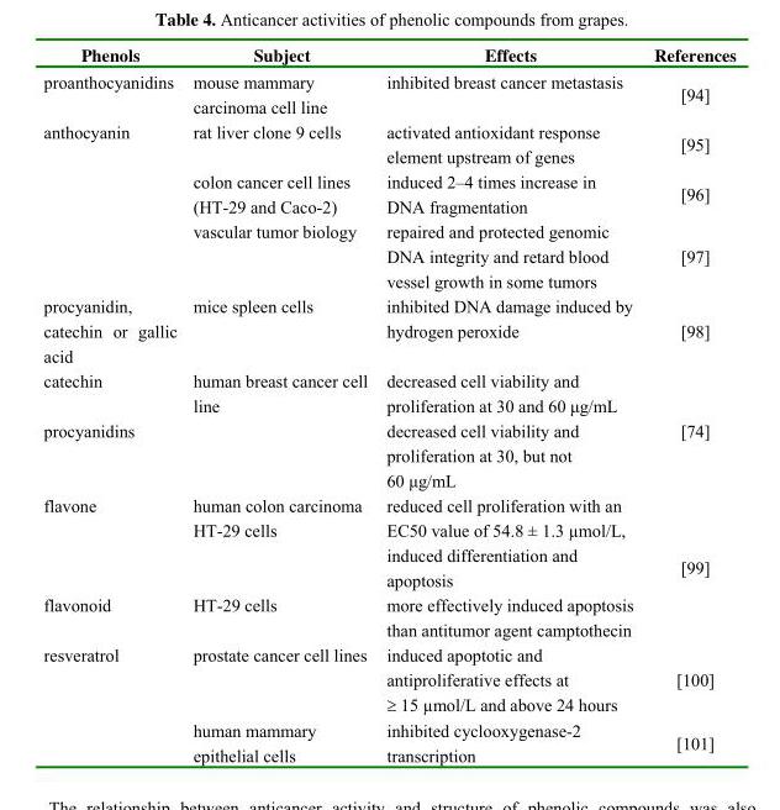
<table><thead><tr><td>Phenols</td><td>Subject</td><td>Effects</td><td>References</td></tr></thead><tbody><tr><td>proanthocyanidins</td><td>mouse mammary carcinoma cell line</td><td>inhibited breast cancer metastasis</td><td>[94]</td></tr><tr><td rowspan="3">anthocyanin</td><td>rat liver clone 9 cells</td><td>activated antioxidant response element upstream of genes</td><td>[95]</td></tr><tr><td>colon cancer cell lines (HT-29 and Caco-2)</td><td>induced 2–4 times increase in DNA fragmentation</td><td>[96]</td></tr><tr><td>vascular tumor biology</td><td>repaired and protected genomic DNA integrity and retard blood vessel growth in some tumors</td><td>[97]</td></tr><tr><td>procyanidin, catechin or gallic acid</td><td>mice spleen cells</td><td>inhibited DNA damage induced by hydrogen peroxide</td><td>[98]</td></tr><tr><td>catechin</td><td>human breast cancer cell line</td><td>decreased cell viability and proliferation at 30 and 60 μg/mL</td><td rowspan="2">[74]</td></tr><tr><td>procyanidins</td><td></td><td>decreased cell viability and proliferation at 30, but not 60 μg/mL</td></tr><tr><td>flavone</td><td>human colon carcinoma HT-29 cells</td><td>reduced cell proliferation with an EC50 value of 54.8 ± 1.3 µmol/L, induced differentiation and apoptosis</td><td rowspan="2">[99]</td></tr><tr><td>flavonoid</td><td>HT-29 cells</td><td>more effectively induced apoptosis than antitumor agent camptothecin</td></tr><tr><td rowspan="2">resveratrol</td><td>prostate cancer cell lines</td><td>induced apoptotic and antiproliferative effects at ≥ 15 µmol/L and above 24 hours</td><td>[100]</td></tr><tr><td>human mammary epithelial cells</td><td>inhibited cyclooxygenase-2 transcription</td><td>[101]</td></tr></tbody></table>